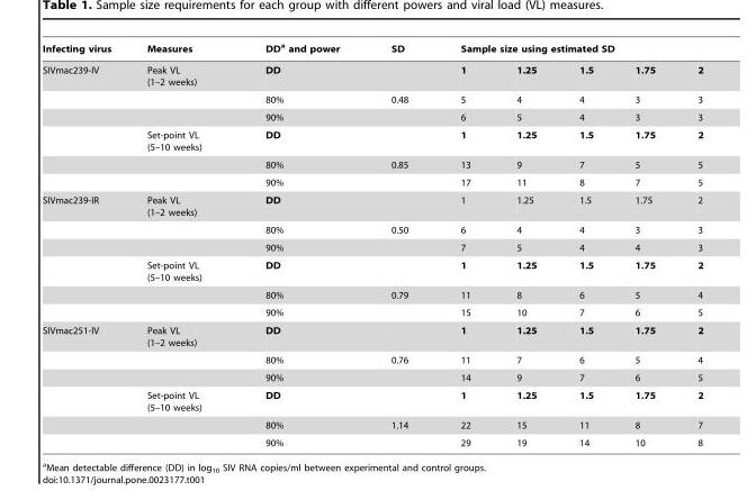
<table><thead><tr><td rowspan="2">Infecting virus SIVmac239-IV</td><td rowspan="2">Measures Peak VL (1–2 weeks)</td><td rowspan="2">DD<sup>a</sup> and power DD</td><td rowspan="2">SD</td><td colspan="5">Sample size using estimated SD</td></tr><tr><td>1</td><td>1.25</td><td>1.5</td><td>1.75</td><td>2</td></tr></thead><tbody><tr><td></td><td></td><td>80%</td><td>0.48</td><td>5</td><td>4</td><td>4</td><td>3</td><td>3</td></tr><tr><td></td><td></td><td>90%</td><td></td><td>6</td><td>5</td><td>4</td><td>3</td><td>3</td></tr><tr><td></td><td>Set-point VL (5–10 weeks)</td><td>DD</td><td></td><td>1</td><td>1.25</td><td>1.5</td><td>1.75</td><td>2</td></tr><tr><td></td><td></td><td>80%</td><td>0.85</td><td>13</td><td>9</td><td>7</td><td>5</td><td>5</td></tr><tr><td></td><td></td><td>90%</td><td></td><td>17</td><td>11</td><td>8</td><td>7</td><td>5</td></tr><tr><td rowspan="6">SIVmac239-IR</td><td>Peak VL (1–2 weeks)</td><td>DD</td><td></td><td>1</td><td>1.25</td><td>1.5</td><td>1.75</td><td>2</td></tr><tr><td></td><td>80%</td><td>0.50</td><td>6</td><td>4</td><td>4</td><td>3</td><td>3</td></tr><tr><td></td><td>90%</td><td></td><td>7</td><td>5</td><td>4</td><td>4</td><td>3</td></tr><tr><td>Set-point VL (5–10 weeks)</td><td>DD</td><td></td><td>1</td><td>1.25</td><td>1.5</td><td>1.75</td><td>2</td></tr><tr><td></td><td>80%</td><td>0.79</td><td>11</td><td>8</td><td>6</td><td>5</td><td>4</td></tr><tr><td></td><td>90%</td><td></td><td>15</td><td>10</td><td>7</td><td>6</td><td>5</td></tr><tr><td rowspan="6">SIVmac251-IV</td><td>Peak VL (1–2 weeks)</td><td>DD</td><td></td><td>1</td><td>1.25</td><td>1.5</td><td>1.75</td><td>2</td></tr><tr><td></td><td>80%</td><td>0.76</td><td>11</td><td>7</td><td>6</td><td>5</td><td>4</td></tr><tr><td></td><td>90%</td><td></td><td>14</td><td>9</td><td>7</td><td>6</td><td>5</td></tr><tr><td>Set-point VL (5–10 weeks)</td><td>DD</td><td></td><td>1</td><td>1.25</td><td>1.5</td><td>1.75</td><td>2</td></tr><tr><td></td><td>80%</td><td>1.14</td><td>22</td><td>15</td><td>11</td><td>8</td><td>7</td></tr><tr><td></td><td>90%</td><td></td><td>29</td><td>19</td><td>14</td><td>10</td><td>8</td></tr></tbody></table>